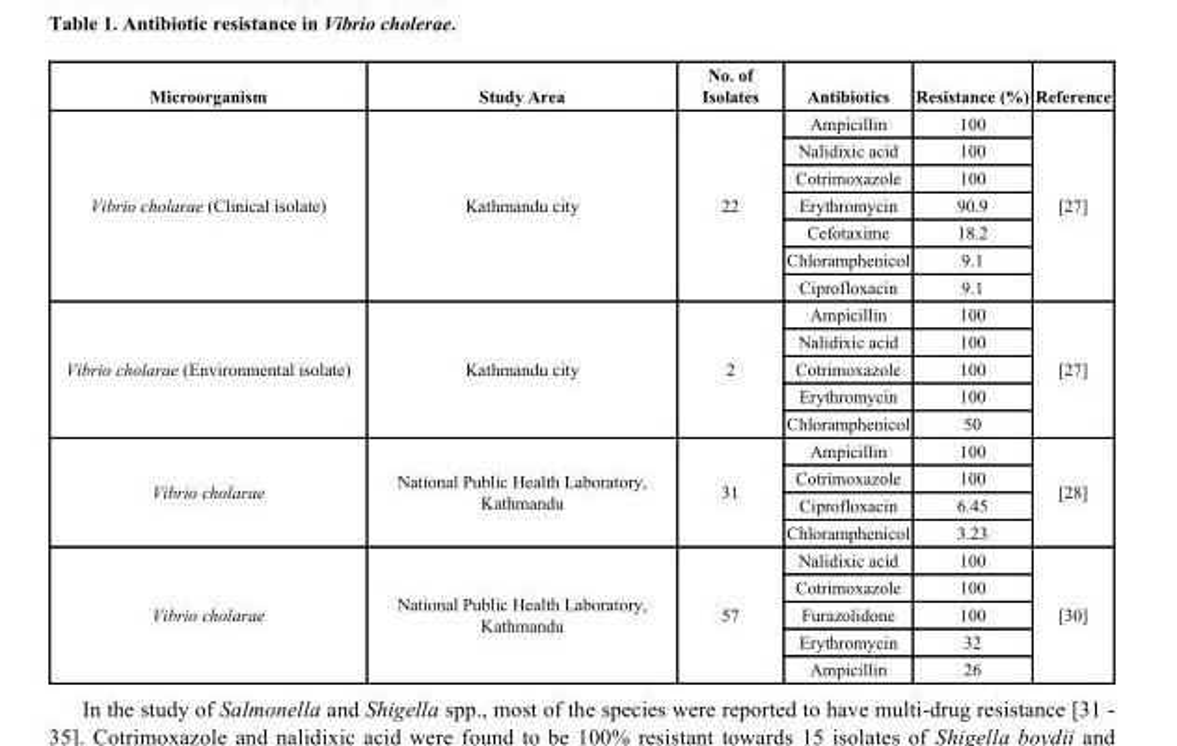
<table><thead><tr><td>Microorganism</td><td>Study Area</td><td>No. of Isolates</td><td>Antibiotics</td><td>Resistance (%)</td><td>Reference</td></tr></thead><tbody><tr><td rowspan="7">Vibrio cholarae (Clinical isolate)</td><td rowspan="7">Kathmandu city</td><td rowspan="7">22</td><td>Ampicillin</td><td>100</td><td rowspan="7">[27]</td></tr><tr><td>Nalidixic acid</td><td>100</td></tr><tr><td>Cotrimoxazole</td><td>100</td></tr><tr><td>Erythromycin</td><td>90.9</td></tr><tr><td>Cefotaxime</td><td>18.2</td></tr><tr><td>Chloramphenicol</td><td>9.1</td></tr><tr><td>Ciprofloxacin</td><td>9.1</td></tr><tr><td rowspan="5">Vibrio cholarae (Environmental isolate)</td><td rowspan="5">Kathmandu city</td><td rowspan="5">2</td><td>Ampicillin</td><td>100</td><td rowspan="5">[27]</td></tr><tr><td>Nalidixic acid</td><td>100</td></tr><tr><td>Cotrimoxazole</td><td>100</td></tr><tr><td>Erythromycin</td><td>100</td></tr><tr><td>Chloramphenicol</td><td>50</td></tr><tr><td rowspan="4">Vibrio cholarae</td><td rowspan="4">National Public Health Laboratory, Kathmandu</td><td rowspan="4">31</td><td>Ampicillin</td><td>100</td><td rowspan="4">[28]</td></tr><tr><td>Cotrimoxazole</td><td>100</td></tr><tr><td>Ciprofloxacin</td><td>6.45</td></tr><tr><td>Chloramphenicol</td><td>3.23</td></tr><tr><td rowspan="5">Vibrio cholarae</td><td rowspan="5">National Public Health Laboratory, Kathmandu</td><td rowspan="5">57</td><td>Nalidixic acid</td><td>100</td><td rowspan="5">[30]</td></tr><tr><td>Cotrimoxazole</td><td>100</td></tr><tr><td>Furazolidone</td><td>100</td></tr><tr><td>Erythromycin</td><td>32</td></tr><tr><td>Ampicillin</td><td>26</td></tr></tbody></table>